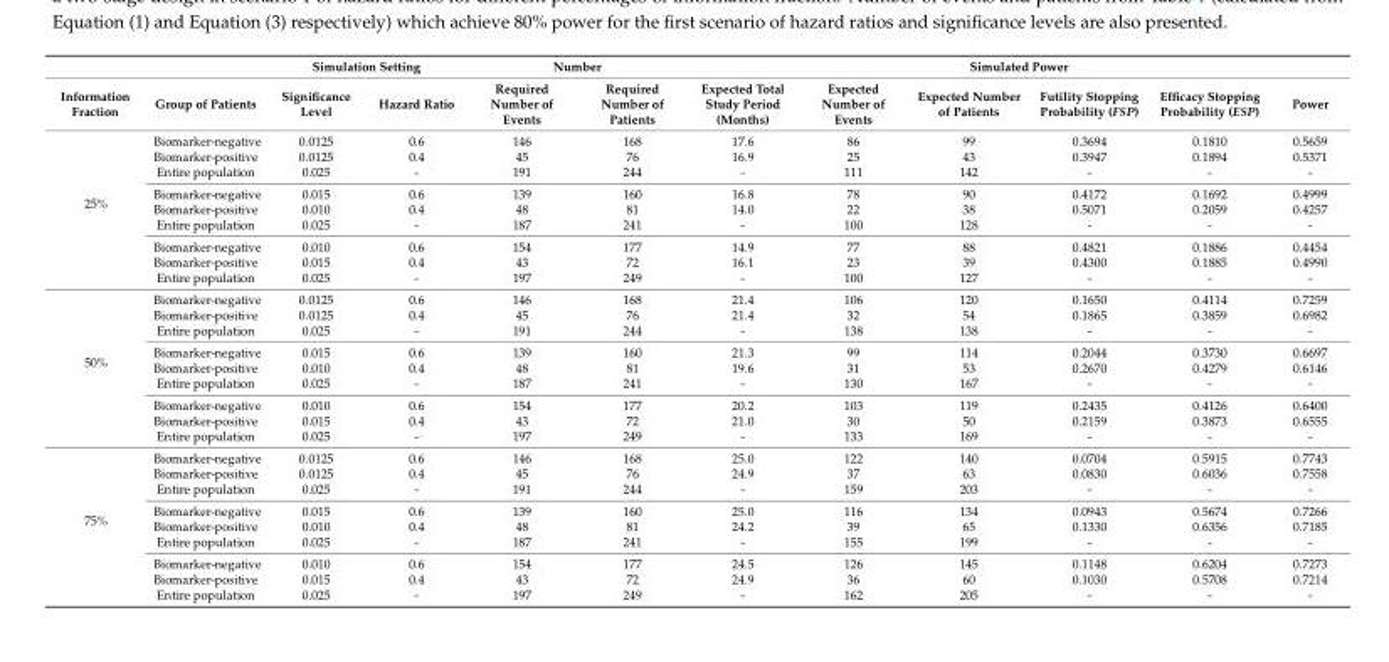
<table><thead><tr><td rowspan="2">Information Fraction</td><td rowspan="2">Group of Patients</td><td colspan="2">Simulation Setting</td><td colspan="2">Number</td><td colspan="6">Simulated Power</td></tr><tr><td>Significance Level</td><td>Hazard Ratio</td><td>Required Number of Events</td><td>Required Number of Patients</td><td>Expected Total Study Period (Months)</td><td>Expected Number of Events</td><td>Expected Number of Patients</td><td>Futility Stopping Probability (FSP)</td><td>Efficacy Stopping Probability (ESP)</td><td>Power</td></tr></thead><tbody><tr><td rowspan="9">25%</td><td>Biomarker-negative</td><td>0.0125</td><td>0.6</td><td>146</td><td>168</td><td>17.6</td><td>86</td><td>99</td><td>0.3694</td><td>0.1810</td><td>0.5659</td></tr><tr><td>Biomarker-positive</td><td>0.0125</td><td>0.4</td><td>45</td><td>76</td><td>16.9</td><td>25</td><td>43</td><td>0.3947</td><td>0.1894</td><td>0.5371</td></tr><tr><td>Entire population</td><td>0.025</td><td>-</td><td>191</td><td>244</td><td>-</td><td>111</td><td>142</td><td>-</td><td>-</td><td>-</td></tr><tr><td>Biomarker-negative</td><td>0.015</td><td>0.6</td><td>139</td><td>160</td><td>16.8</td><td>78</td><td>90</td><td>0.4172</td><td>0.1692</td><td>0.4999</td></tr><tr><td>Biomarker-positive</td><td>0.010</td><td>0.4</td><td>48</td><td>81</td><td>14.0</td><td>22</td><td>38</td><td>0.5071</td><td>0.2059</td><td>0.4257</td></tr><tr><td>Entire population</td><td>0.025</td><td>-</td><td>187</td><td>241</td><td>-</td><td>100</td><td>128</td><td>-</td><td>-</td><td>-</td></tr><tr><td>Biomarker-negative</td><td>0.010</td><td>0.6</td><td>154</td><td>177</td><td>14.9</td><td>77</td><td>88</td><td>0.4821</td><td>0.1886</td><td>0.4454</td></tr><tr><td>Biomarker-positive</td><td>0.015</td><td>0.4</td><td>43</td><td>72</td><td>16.1</td><td>23</td><td>39</td><td>0.4300</td><td>0.1885</td><td>0.4990</td></tr><tr><td>Entire population</td><td>0.025</td><td>-</td><td>197</td><td>249</td><td>-</td><td>100</td><td>127</td><td>-</td><td>-</td><td>-</td></tr><tr><td rowspan="9">50%</td><td>Biomarker-negative</td><td>0.0125</td><td>0.6</td><td>146</td><td>168</td><td>21.4</td><td>106</td><td>120</td><td>0.1650</td><td>0.4114</td><td>0.7259</td></tr><tr><td>Biomarker-positive</td><td>0.0125</td><td>0.4</td><td>45</td><td>76</td><td>21.4</td><td>32</td><td>54</td><td>0.1865</td><td>0.3859</td><td>0.6982</td></tr><tr><td>Entire population</td><td>0.025</td><td>-</td><td>191</td><td>244</td><td>-</td><td>138</td><td>138</td><td>-</td><td>-</td><td>-</td></tr><tr><td>Biomarker-negative</td><td>0.015</td><td>0.6</td><td>139</td><td>160</td><td>21.3</td><td>99</td><td>114</td><td>0.2044</td><td>0.3730</td><td>0.6697</td></tr><tr><td>Biomarker-positive</td><td>0.010</td><td>0.4</td><td>48</td><td>81</td><td>19.6</td><td>31</td><td>53</td><td>0.2670</td><td>0.4279</td><td>0.6146</td></tr><tr><td>Entire population</td><td>0.025</td><td>-</td><td>187</td><td>241</td><td>-</td><td>130</td><td>167</td><td>-</td><td>-</td><td>-</td></tr><tr><td>Biomarker-negative</td><td>0.010</td><td>0.6</td><td>154</td><td>177</td><td>20.2</td><td>103</td><td>119</td><td>0.2435</td><td>0.4126</td><td>0.6400</td></tr><tr><td>Biomarker-positive</td><td>0.015</td><td>0.4</td><td>43</td><td>72</td><td>21.0</td><td>30</td><td>50</td><td>0.2159</td><td>0.3873</td><td>0.6555</td></tr><tr><td>Entire population</td><td>0.025</td><td>-</td><td>197</td><td>249</td><td>-</td><td>133</td><td>169</td><td>-</td><td>-</td><td>-</td></tr><tr><td rowspan="9">75%</td><td>Biomarker-negative</td><td>0.0125</td><td>0.6</td><td>146</td><td>168</td><td>25.0</td><td>122</td><td>140</td><td>0.0704</td><td>0.5915</td><td>0.7743</td></tr><tr><td>Biomarker-positive</td><td>0.0125</td><td>0.4</td><td>45</td><td>76</td><td>24.9</td><td>37</td><td>63</td><td>0.0830</td><td>0.6036</td><td>0.7558</td></tr><tr><td>Entire population</td><td>0.025</td><td>-</td><td>191</td><td>244</td><td>-</td><td>159</td><td>203</td><td>-</td><td>-</td><td>-</td></tr><tr><td>Biomarker-negative</td><td>0.015</td><td>0.6</td><td>139</td><td>160</td><td>25.0</td><td>116</td><td>134</td><td>0.0943</td><td>0.5674</td><td>0.7266</td></tr><tr><td>Biomarker-positive</td><td>0.010</td><td>0.4</td><td>48</td><td>81</td><td>24.2</td><td>39</td><td>65</td><td>0.1330</td><td>0.6356</td><td>0.7185</td></tr><tr><td>Entire population</td><td>0.025</td><td>-</td><td>187</td><td>241</td><td>-</td><td>155</td><td>199</td><td>-</td><td>-</td><td>-</td></tr><tr><td>Biomarker-negative</td><td>0.010</td><td>0.6</td><td>154</td><td>177</td><td>24.5</td><td>126</td><td>145</td><td>0.1148</td><td>0.6204</td><td>0.7273</td></tr><tr><td>Biomarker-positive</td><td>0.015</td><td>0.4</td><td>43</td><td>72</td><td>24.9</td><td>36</td><td>60</td><td>0.1030</td><td>0.5708</td><td>0.7214</td></tr><tr><td>Entire population</td><td>0.025</td><td>-</td><td>197</td><td>249</td><td>-</td><td>162</td><td>205</td><td>-</td><td>-</td><td>-</td></tr></tbody></table>